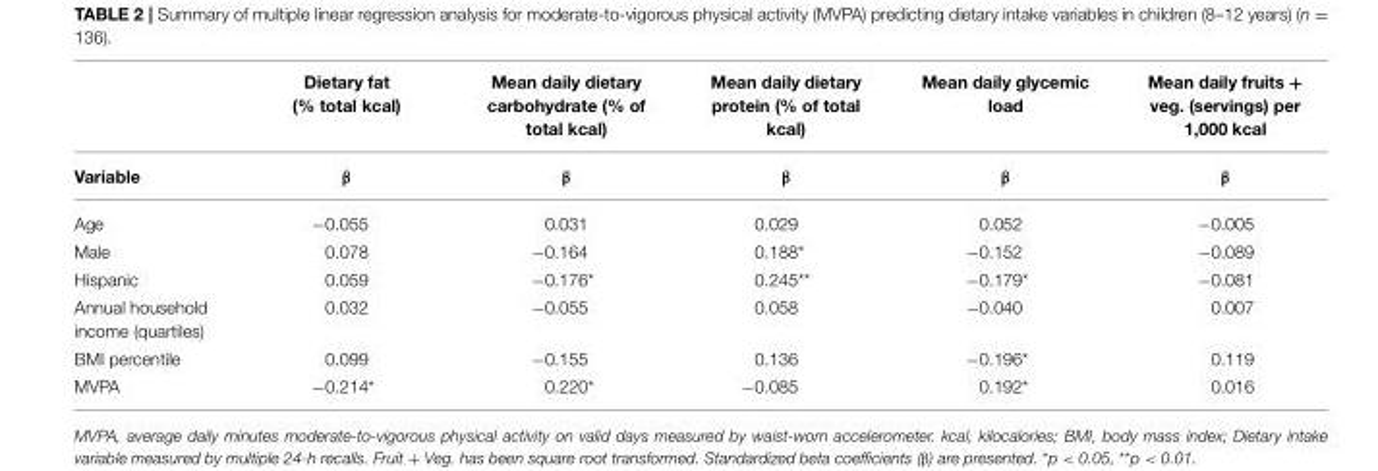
<table><thead><tr><td></td><td>Dietary fat (% total kcal)</td><td>Mean daily dietary carbohydrate (% of total kcal)</td><td>Mean daily dietary protein (% of total kcal)</td><td>Mean daily glycemic load</td><td>Mean daily fruits + veg. (servings) per 1,000 kcal</td></tr></thead><tbody><tr><td>Variable</td><td>β</td><td>β</td><td>β</td><td>β</td><td>β</td></tr><tr><td>Age</td><td>−0.055</td><td>0.031</td><td>0.029</td><td>0.052</td><td>−0.005</td></tr><tr><td>Male</td><td>0.078</td><td>−0.164</td><td>0.188*</td><td>−0.152</td><td>−0.089</td></tr><tr><td>Hispanic</td><td>0.059</td><td>−0.176*</td><td>0.245**</td><td>−0.179*</td><td>−0.081</td></tr><tr><td>Annual household income (quartiles)</td><td>0.032</td><td>−0.055</td><td>0.058</td><td>−0.040</td><td>0.007</td></tr><tr><td>BMI percentile</td><td>0.099</td><td>−0.155</td><td>0.136</td><td>−0.196*</td><td>0.119</td></tr><tr><td>MVPA</td><td>−0.214*</td><td>0.220*</td><td>−0.085</td><td>0.192*</td><td>0.016</td></tr></tbody></table>